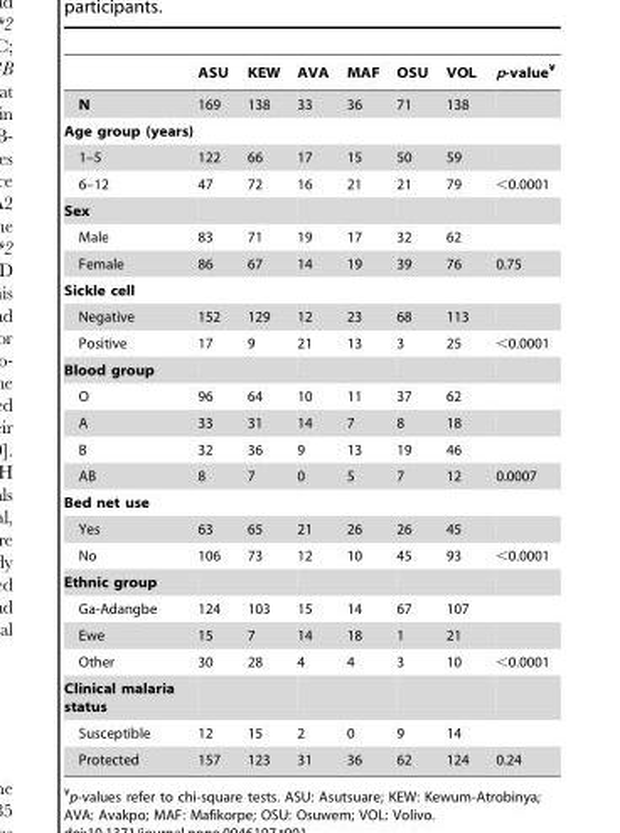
<table><thead><tr><td></td><td>ASU</td><td>KEW</td><td>AVA</td><td>MAF</td><td>OSU</td><td>VOL</td><td>p-value¥</td></tr></thead><tbody><tr><td>N</td><td>169</td><td>138</td><td>33</td><td>36</td><td>71</td><td>138</td><td></td></tr><tr><td colspan="8">Age group (years)</td></tr><tr><td>1–5</td><td>122</td><td>66</td><td>17</td><td>15</td><td>50</td><td>59</td><td></td></tr><tr><td>6–12</td><td>47</td><td>72</td><td>16</td><td>21</td><td>21</td><td>79</td><td>&lt;0.0001</td></tr><tr><td colspan="8">Sex</td></tr><tr><td>Male</td><td>83</td><td>71</td><td>19</td><td>17</td><td>32</td><td>62</td><td></td></tr><tr><td>Female</td><td>86</td><td>67</td><td>14</td><td>19</td><td>39</td><td>76</td><td>0.75</td></tr><tr><td colspan="8">Sickle cell</td></tr><tr><td>Negative</td><td>152</td><td>129</td><td>12</td><td>23</td><td>68</td><td>113</td><td></td></tr><tr><td>Positive</td><td>17</td><td>9</td><td>21</td><td>13</td><td>3</td><td>25</td><td>&lt;0.0001</td></tr><tr><td colspan="8">Blood group</td></tr><tr><td>O</td><td>96</td><td>64</td><td>10</td><td>11</td><td>37</td><td>62</td><td></td></tr><tr><td>A</td><td>33</td><td>31</td><td>14</td><td>7</td><td>8</td><td>18</td><td></td></tr><tr><td>B</td><td>32</td><td>36</td><td>9</td><td>13</td><td>19</td><td>46</td><td></td></tr><tr><td>AB</td><td>8</td><td>7</td><td>0</td><td>5</td><td>7</td><td>12</td><td>0.0007</td></tr><tr><td colspan="8">Bed net use</td></tr><tr><td>Yes</td><td>63</td><td>65</td><td>21</td><td>26</td><td>26</td><td>45</td><td></td></tr><tr><td>No</td><td>106</td><td>73</td><td>12</td><td>10</td><td>45</td><td>93</td><td>&lt;0.0001</td></tr><tr><td colspan="8">Ethnic group</td></tr><tr><td>Ga-Adangbe</td><td>124</td><td>103</td><td>15</td><td>14</td><td>67</td><td>107</td><td></td></tr><tr><td>Ewe</td><td>15</td><td>7</td><td>14</td><td>18</td><td>1</td><td>21</td><td></td></tr><tr><td>Other</td><td>30</td><td>28</td><td>4</td><td>4</td><td>3</td><td>10</td><td>&lt;0.0001</td></tr><tr><td colspan="8">Clinical malaria status</td></tr><tr><td>Susceptible</td><td>12</td><td>15</td><td>2</td><td>0</td><td>9</td><td>14</td><td></td></tr><tr><td>Protected</td><td>157</td><td>123</td><td>31</td><td>36</td><td>62</td><td>124</td><td>0.24</td></tr></tbody></table>